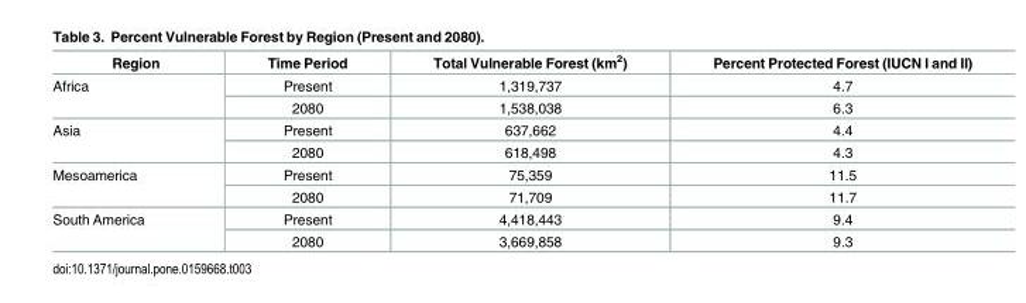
<table><thead><tr><td>Region</td><td>Time Period</td><td>Total Vulnerable Forest (km<sup>2</sup>)</td><td>Percent Protected Forest (IUCN I and II)</td></tr></thead><tbody><tr><td rowspan="2">Africa</td><td>Present</td><td>1,319,737</td><td>4.7</td></tr><tr><td>2080</td><td>1,538,038</td><td>6.3</td></tr><tr><td rowspan="2">Asia</td><td>Present</td><td>637,662</td><td>4.4</td></tr><tr><td>2080</td><td>618,498</td><td>4.3</td></tr><tr><td rowspan="2">Mesoamerica</td><td>Present</td><td>75,359</td><td>11.5</td></tr><tr><td>2080</td><td>71,709</td><td>11.7</td></tr><tr><td rowspan="2">South America</td><td>Present</td><td>4,418,443</td><td>9.4</td></tr><tr><td>2080</td><td>3,669,858</td><td>9.3</td></tr></tbody></table>